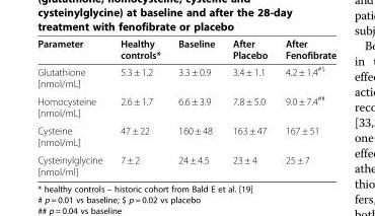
<table><thead><tr><td>Parameter</td><td>Healthy controls*</td><td>Baseline</td><td>After Placebo</td><td>After Fenofibrate</td></tr></thead><tbody><tr><td>Glutathione [nmol/mL]</td><td>5.3 ± 1.2</td><td>3.3 ± 0.9</td><td>3.4 ± 1.1</td><td>4.2 ± 1.4<sup>#$</sup></td></tr><tr><td>Homocysteine [nmol/mL]</td><td>2.6 ± 1.7</td><td>6.6 ± 3.9</td><td>7.8 ± 5.0</td><td>9.0 ± 7.4<sup>##</sup></td></tr><tr><td>Cysteine [nmol/mL]</td><td>47 ± 22</td><td>160 ± 48</td><td>163 ± 47</td><td>167 ± 51</td></tr><tr><td>Cysteinylglycine [nmol/ml]</td><td>7 ± 2</td><td>24 ± 4.5</td><td>23 ± 4</td><td>25 ± 7</td></tr></tbody></table>